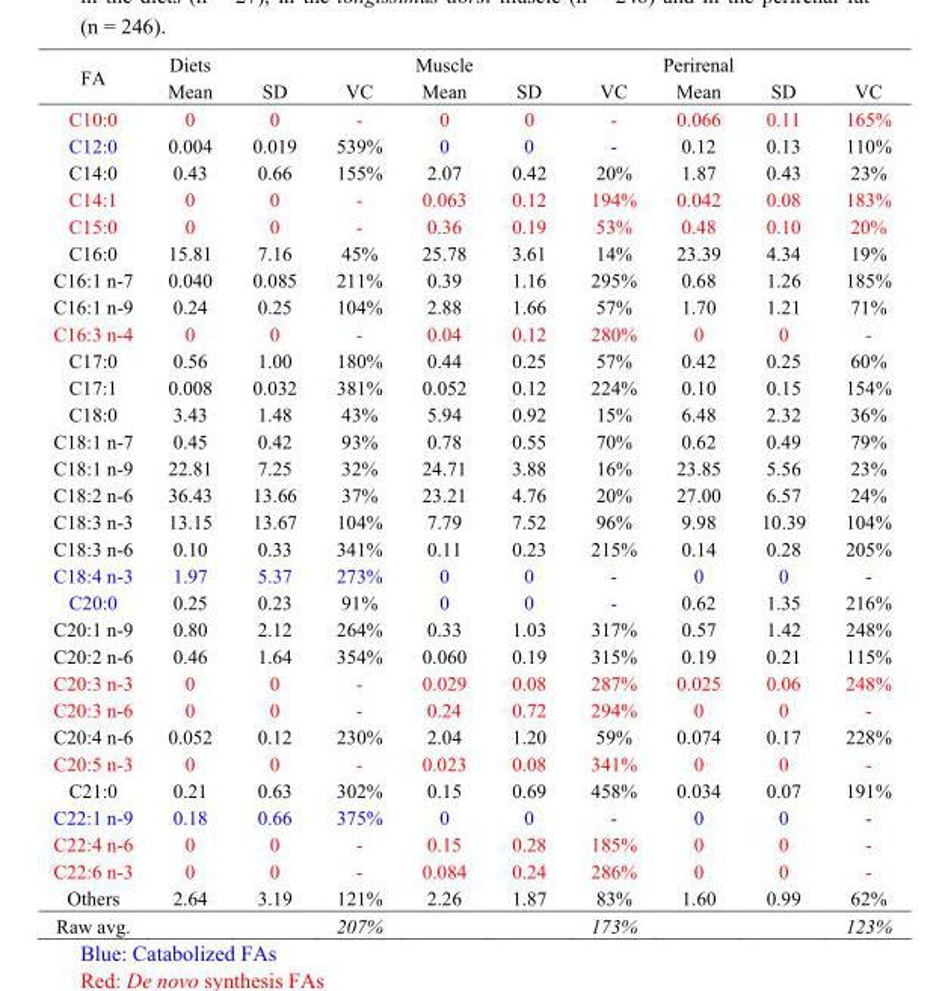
<table><thead><tr><td rowspan="2">FA</td><td rowspan="2">Diets Mean</td><td rowspan="2">SD</td><td rowspan="2">VC</td><td rowspan="2">Muscle Mean</td><td rowspan="2">SD</td><td rowspan="2">VC</td><td rowspan="2">Perirenal Mean</td><td rowspan="2">SD</td><td rowspan="2">VC</td></tr><tr></tr></thead><tbody><tr><td>C10:0</td><td>0</td><td>0</td><td>-</td><td>0</td><td>0</td><td>-</td><td>0.066</td><td>0.11</td><td>165%</td></tr><tr><td>C12:0</td><td>0.004</td><td>0.019</td><td>539%</td><td>0</td><td>0</td><td>-</td><td>0.12</td><td>0.13</td><td>110%</td></tr><tr><td>C14:0</td><td>0.43</td><td>0.66</td><td>155%</td><td>2.07</td><td>0.42</td><td>20%</td><td>1.87</td><td>0.43</td><td>23%</td></tr><tr><td>C14:1</td><td>0</td><td>0</td><td>-</td><td>0.063</td><td>0.12</td><td>194%</td><td>0.042</td><td>0.08</td><td>183%</td></tr><tr><td>C15:0</td><td>0</td><td>0</td><td>-</td><td>0.36</td><td>0.19</td><td>53%</td><td>0.48</td><td>0.10</td><td>20%</td></tr><tr><td>C16:0</td><td>15.81</td><td>7.16</td><td>45%</td><td>25.78</td><td>3.61</td><td>14%</td><td>23.39</td><td>4.34</td><td>19%</td></tr><tr><td>C16:1 n-7</td><td>0.040</td><td>0.085</td><td>211%</td><td>0.39</td><td>1.16</td><td>295%</td><td>0.68</td><td>1.26</td><td>185%</td></tr><tr><td>C16:1 n-9</td><td>0.24</td><td>0.25</td><td>104%</td><td>2.88</td><td>1.66</td><td>57%</td><td>1.70</td><td>1.21</td><td>71%</td></tr><tr><td>C16:3 n-4</td><td>0</td><td>0</td><td>-</td><td>0.04</td><td>0.12</td><td>280%</td><td>0</td><td>0</td><td>-</td></tr><tr><td>C17:0</td><td>0.56</td><td>1.00</td><td>180%</td><td>0.44</td><td>0.25</td><td>57%</td><td>0.42</td><td>0.25</td><td>60%</td></tr><tr><td>C17:1</td><td>0.008</td><td>0.032</td><td>381%</td><td>0.052</td><td>0.12</td><td>224%</td><td>0.10</td><td>0.15</td><td>154%</td></tr><tr><td>C18:0</td><td>3.43</td><td>1.48</td><td>43%</td><td>5.94</td><td>0.92</td><td>15%</td><td>6.48</td><td>2.32</td><td>36%</td></tr><tr><td>C18:1 n-7</td><td>0.45</td><td>0.42</td><td>93%</td><td>0.78</td><td>0.55</td><td>70%</td><td>0.62</td><td>0.49</td><td>79%</td></tr><tr><td>C18:1 n-9</td><td>22.81</td><td>7.25</td><td>32%</td><td>24.71</td><td>3.88</td><td>16%</td><td>23.85</td><td>5.56</td><td>23%</td></tr><tr><td>C18:2 n-6</td><td>36.43</td><td>13.66</td><td>37%</td><td>23.21</td><td>4.76</td><td>20%</td><td>27.00</td><td>6.57</td><td>24%</td></tr><tr><td>C18:3 n-3</td><td>13.15</td><td>13.67</td><td>104%</td><td>7.79</td><td>7.52</td><td>96%</td><td>9.98</td><td>10.39</td><td>104%</td></tr><tr><td>C18:3 n-6</td><td>0.10</td><td>0.33</td><td>341%</td><td>0.11</td><td>0.23</td><td>215%</td><td>0.14</td><td>0.28</td><td>205%</td></tr><tr><td>C18:4 n-3</td><td>1.97</td><td>5.37</td><td>273%</td><td>0</td><td>0</td><td>-</td><td>0</td><td>0</td><td>-</td></tr><tr><td>C20:0</td><td>0.25</td><td>0.23</td><td>91%</td><td>0</td><td>0</td><td>-</td><td>0.62</td><td>1.35</td><td>216%</td></tr><tr><td>C20:1 n-9</td><td>0.80</td><td>2.12</td><td>264%</td><td>0.33</td><td>1.03</td><td>317%</td><td>0.57</td><td>1.42</td><td>248%</td></tr><tr><td>C20:2 n-6</td><td>0.46</td><td>1.64</td><td>354%</td><td>0.060</td><td>0.19</td><td>315%</td><td>0.19</td><td>0.21</td><td>115%</td></tr><tr><td>C20:3 n-3</td><td>0</td><td>0</td><td>-</td><td>0.029</td><td>0.08</td><td>287%</td><td>0.025</td><td>0.06</td><td>248%</td></tr><tr><td>C20:3 n-6</td><td>0</td><td>0</td><td>-</td><td>0.24</td><td>0.72</td><td>294%</td><td>0</td><td>0</td><td>-</td></tr><tr><td>C20:4 n-6</td><td>0.052</td><td>0.12</td><td>230%</td><td>2.04</td><td>1.20</td><td>59%</td><td>0.074</td><td>0.17</td><td>228%</td></tr><tr><td>C20:5 n-3</td><td>0</td><td>0</td><td>-</td><td>0.023</td><td>0.08</td><td>341%</td><td>0</td><td>0</td><td>-</td></tr><tr><td>C21:0</td><td>0.21</td><td>0.63</td><td>302%</td><td>0.15</td><td>0.69</td><td>458%</td><td>0.034</td><td>0.07</td><td>191%</td></tr><tr><td>C22:1 n-9</td><td>0.18</td><td>0.66</td><td>375%</td><td>0</td><td>0</td><td>-</td><td>0</td><td>0</td><td>-</td></tr><tr><td>C22:4 n-6</td><td>0</td><td>0</td><td>-</td><td>0.15</td><td>0.28</td><td>185%</td><td>0</td><td>0</td><td>-</td></tr><tr><td>C22:6 n-3</td><td>0</td><td>0</td><td>-</td><td>0.084</td><td>0.24</td><td>286%</td><td>0</td><td>0</td><td>-</td></tr><tr><td>Others</td><td>2.64</td><td>3.19</td><td>121%</td><td>2.26</td><td>1.87</td><td>83%</td><td>1.60</td><td>0.99</td><td>62%</td></tr><tr><td>Raw avg.</td><td></td><td></td><td>207%</td><td></td><td></td><td>173%</td><td></td><td></td><td>123%</td></tr></tbody></table>